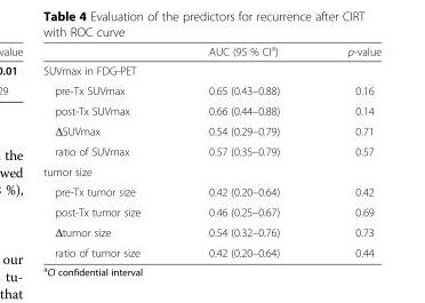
<table><thead><tr><td></td><td>AUC (95 % CI<sup>a</sup>)</td><td>p-value</td></tr></thead><tbody><tr><td colspan="3">SUVmax in FDG-PET</td></tr><tr><td>pre-Tx SUVmax</td><td>0.65 (0.43–0.88)</td><td>0.16</td></tr><tr><td>post-Tx SUVmax</td><td>0.66 (0.44–0.88)</td><td>0.14</td></tr><tr><td>ΔSUVmax</td><td>0.54 (0.29–0.79)</td><td>0.71</td></tr><tr><td>ratio of SUVmax</td><td>0.57 (0.35–0.79)</td><td>0.57</td></tr><tr><td colspan="3">tumor size</td></tr><tr><td>pre-Tx tumor size</td><td>0.42 (0.20–0.64)</td><td>0.42</td></tr><tr><td>post-Tx tumor size</td><td>0.46 (0.25–0.67)</td><td>0.69</td></tr><tr><td>Δtumor size</td><td>0.54 (0.32–0.76)</td><td>0.73</td></tr><tr><td>ratio of tumor size</td><td>0.42 (0.20–0.64)</td><td>0.44</td></tr></tbody></table>